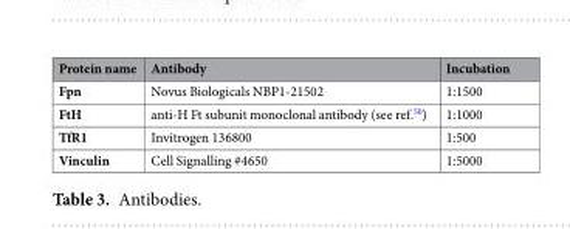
<table><thead><tr><td>Protein name</td><td>Antibody</td><td>Incubation</td></tr></thead><tbody><tr><td>Fpn</td><td>Novus Biologicals NBP1-21502</td><td>1:1500</td></tr><tr><td>FtH</td><td>anti-H Ft subunit monoclonal antibody (see ref.<sup>50</sup>)</td><td>1:1000</td></tr><tr><td>TfR1</td><td>Invitrogen 136800</td><td>1:500</td></tr><tr><td>Vinculin</td><td>Cell Signalling #4650</td><td>1:5000</td></tr></tbody></table>